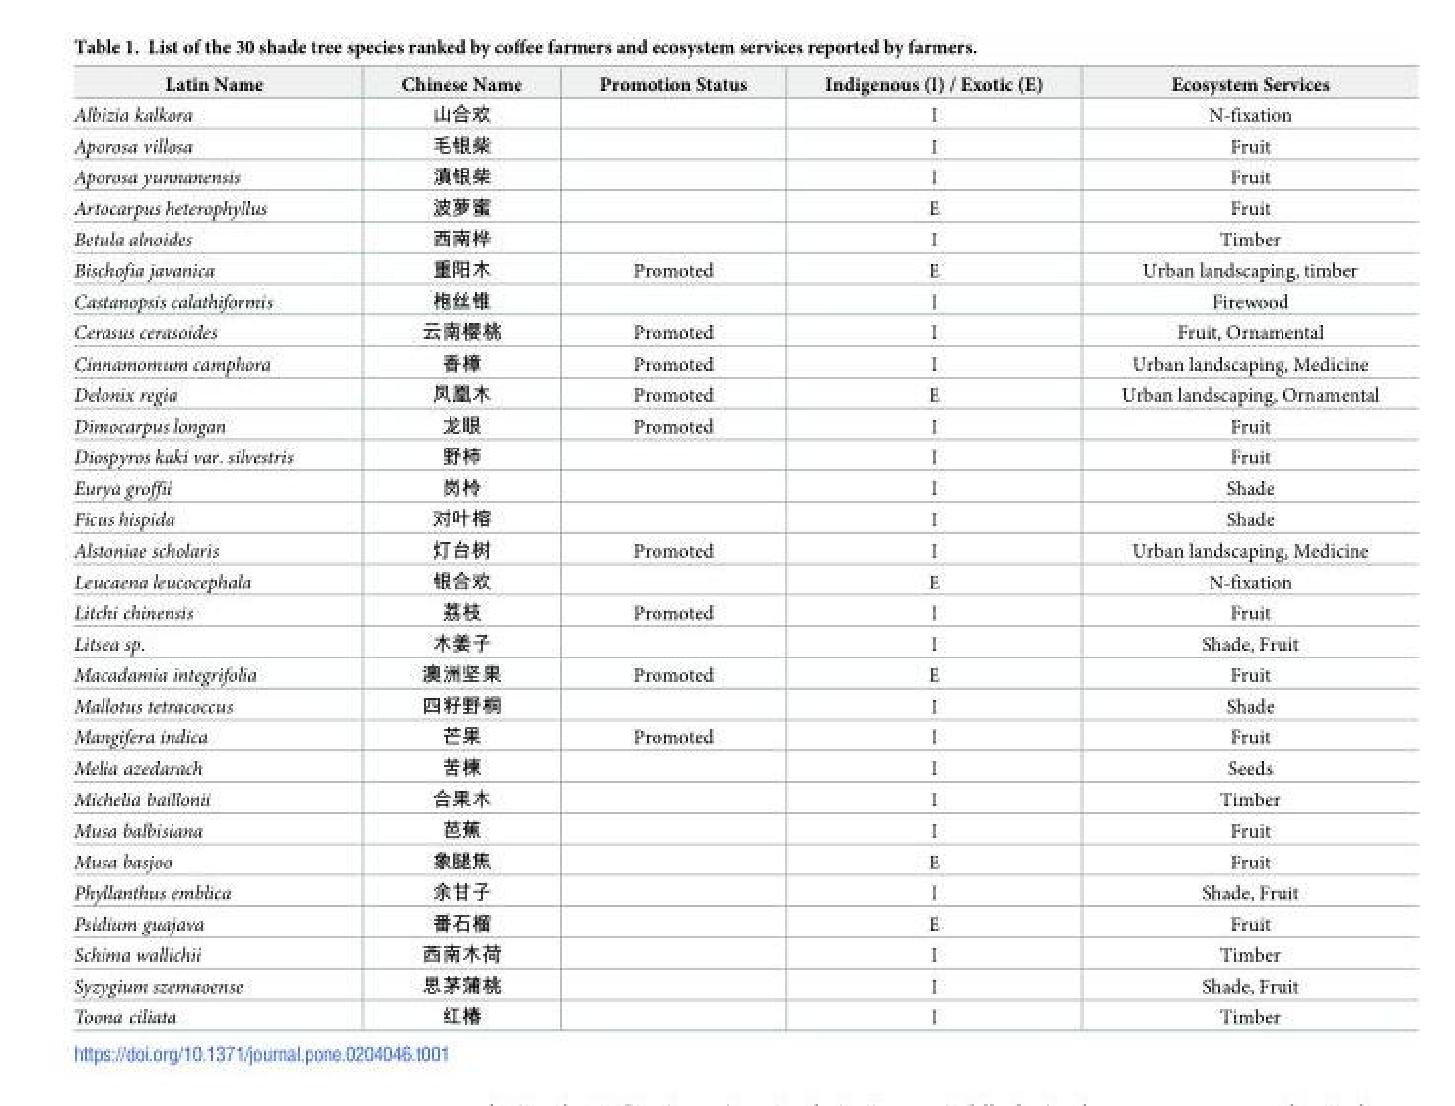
<table><thead><tr><td>Latin Name</td><td>Chinese Name</td><td>Promotion Status</td><td>Indigenous (I) / Exotic (E)</td><td>Ecosystem Services</td></tr></thead><tbody><tr><td>Albizia kalkora</td><td>山合欢</td><td></td><td>I</td><td>N-fixation</td></tr><tr><td>Aporosa villosa</td><td>毛银柴</td><td></td><td>I</td><td>Fruit</td></tr><tr><td>Aporosa yunnanensis</td><td>滇银柴</td><td></td><td>I</td><td>Fruit</td></tr><tr><td>Artocarpus heterophyllus</td><td>波萝蜜</td><td></td><td>E</td><td>Fruit</td></tr><tr><td>Betula alnoides</td><td>西南桦</td><td></td><td>I</td><td>Timber</td></tr><tr><td>Bischofia javanica</td><td>重阳木</td><td>Promoted</td><td>E</td><td>Urban landscaping, timber</td></tr><tr><td>Castanopsis calathiformis</td><td>枹丝锥</td><td></td><td>I</td><td>Firewood</td></tr><tr><td>Cerasus cerasoides</td><td>云南樱桃</td><td>Promoted</td><td>I</td><td>Fruit, Ornamental</td></tr><tr><td>Cinnamomum camphora</td><td>香樟</td><td>Promoted</td><td>I</td><td>Urban landscaping, Medicine</td></tr><tr><td>Delonix regia</td><td>凤凰木</td><td>Promoted</td><td>E</td><td>Urban landscaping, Ornamental</td></tr><tr><td>Dimocarpus longan</td><td>龙眼</td><td>Promoted</td><td>I</td><td>Fruit</td></tr><tr><td>Diospyros kaki var. silvestris</td><td>野柿</td><td></td><td>I</td><td>Fruit</td></tr><tr><td>Eurya groffii</td><td>岗柃</td><td></td><td>I</td><td>Shade</td></tr><tr><td>Ficus hispida</td><td>对叶榕</td><td></td><td>I</td><td>Shade</td></tr><tr><td>Alstoniae scholaris</td><td>灯台树</td><td>Promoted</td><td>I</td><td>Urban landscaping, Medicine</td></tr><tr><td>Leucaena leucocephala</td><td>银合欢</td><td></td><td>E</td><td>N-fixation</td></tr><tr><td>Litchi chinensis</td><td>荔枝</td><td>Promoted</td><td>I</td><td>Fruit</td></tr><tr><td>Litsea sp.</td><td>木姜子</td><td></td><td>I</td><td>Shade, Fruit</td></tr><tr><td>Macadamia integrifolia</td><td>澳洲坚果</td><td>Promoted</td><td>E</td><td>Fruit</td></tr><tr><td>Mallotus tetracoccus</td><td>四籽野桐</td><td></td><td>I</td><td>Shade</td></tr><tr><td>Mangifera indica</td><td>芒果</td><td>Promoted</td><td>I</td><td>Fruit</td></tr><tr><td>Melia azedarach</td><td>苦楝</td><td></td><td>I</td><td>Seeds</td></tr><tr><td>Michelia baillonii</td><td>合果木</td><td></td><td>I</td><td>Timber</td></tr><tr><td>Musa balbisiana</td><td>芭蕉</td><td></td><td>I</td><td>Fruit</td></tr><tr><td>Musa basjoo</td><td>象腿焦</td><td></td><td>E</td><td>Fruit</td></tr><tr><td>Phyllanthus emblica</td><td>余甘子</td><td></td><td>I</td><td>Shade, Fruit</td></tr><tr><td>Psidium guajava</td><td>番石榴</td><td></td><td>E</td><td>Fruit</td></tr><tr><td>Schima wallichii</td><td>西南木荷</td><td></td><td>I</td><td>Timber</td></tr><tr><td>Syzygium szemaoense</td><td>思茅蒲桃</td><td></td><td>I</td><td>Shade, Fruit</td></tr><tr><td>Toona ciliata</td><td>红椿</td><td></td><td>I</td><td>Timber</td></tr></tbody></table>